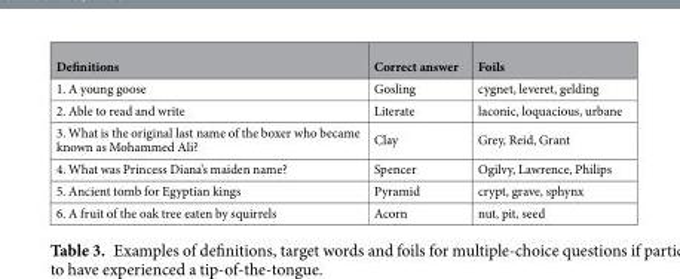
<table><thead><tr><td>Definitions</td><td>Correct answer</td><td>Foils</td></tr></thead><tbody><tr><td>1. A young goose</td><td>Gosling</td><td>cygnet, leveret, gelding</td></tr><tr><td>2. Able to read and write</td><td>Literate</td><td>laconic, loquacious, urbane</td></tr><tr><td>3. What is the original last name of the boxer who became known as Mohammed Ali?</td><td>Clay</td><td>Grey, Reid, Grant</td></tr><tr><td>4. What was Princess Diana’s maiden name?</td><td>Spencer</td><td>Ogilvy, Lawrence, Philips</td></tr><tr><td>5. Ancient tomb for Egyptian kings</td><td>Pyramid</td><td>crypt, grave, sphynx</td></tr><tr><td>6. A fruit of the oak tree eaten by squirrels</td><td>Acorn</td><td>nut, pit, seed</td></tr></tbody></table>